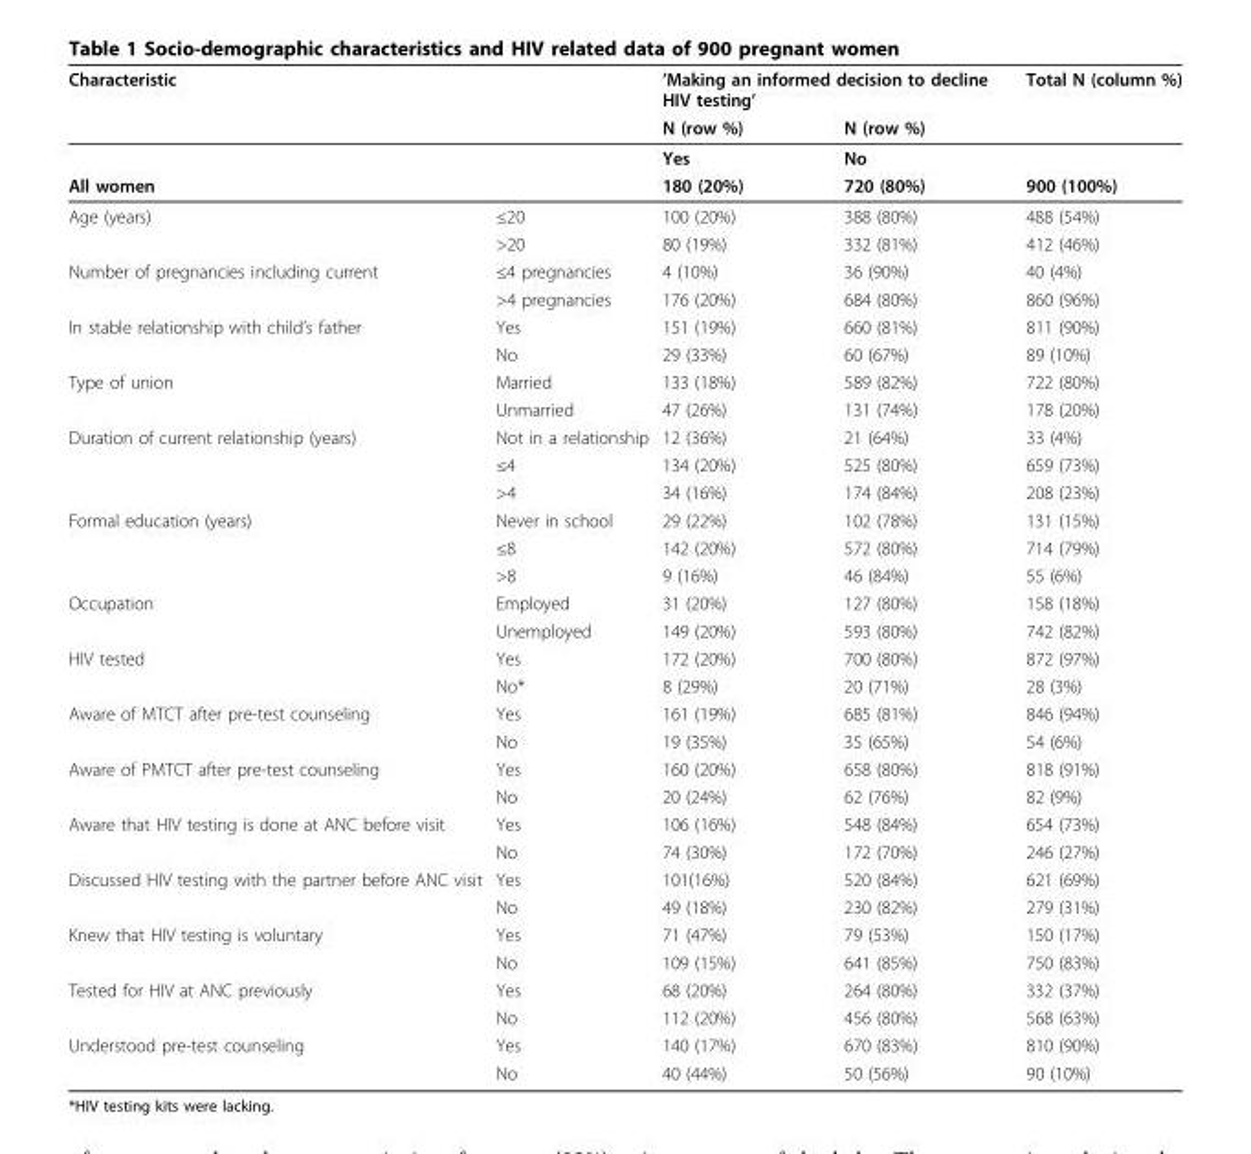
<table><thead><tr><td rowspan="2">Characteristic</td><td rowspan="2"></td><td colspan="2">’Making an informed decision to decline HIV testing’</td><td rowspan="2">Total N (column %)</td></tr><tr><td>N (row %)</td><td>N (row %)</td></tr></thead><tbody><tr><td></td><td></td><td>Yes</td><td>No</td><td></td></tr><tr><td>All women</td><td></td><td>180 (20%)</td><td>720 (80%)</td><td>900 (100%)</td></tr><tr><td rowspan="2">Age (years)</td><td>≤20</td><td>100 (20%)</td><td>388 (80%)</td><td>488 (54%)</td></tr><tr><td>&gt;20</td><td>80 (19%)</td><td>332 (81%)</td><td>412 (46%)</td></tr><tr><td rowspan="2">Number of pregnancies including current</td><td>≤4 pregnancies</td><td>4 (10%)</td><td>36 (90%)</td><td>40 (4%)</td></tr><tr><td>&gt;4 pregnancies</td><td>176 (20%)</td><td>684 (80%)</td><td>860 (96%)</td></tr><tr><td rowspan="2">In stable relationship with child’s father</td><td>Yes</td><td>151 (19%)</td><td>660 (81%)</td><td>811 (90%)</td></tr><tr><td>No</td><td>29 (33%)</td><td>60 (67%)</td><td>89 (10%)</td></tr><tr><td rowspan="2">Type of union</td><td>Married</td><td>133 (18%)</td><td>589 (82%)</td><td>722 (80%)</td></tr><tr><td>Unmarried</td><td>47 (26%)</td><td>131 (74%)</td><td>178 (20%)</td></tr><tr><td rowspan="3">Duration of current relationship (years)</td><td>Not in a relationship</td><td>12 (36%)</td><td>21 (64%)</td><td>33 (4%)</td></tr><tr><td>≤4</td><td>134 (20%)</td><td>525 (80%)</td><td>659 (73%)</td></tr><tr><td>&gt;4</td><td>34 (16%)</td><td>174 (84%)</td><td>208 (23%)</td></tr><tr><td rowspan="3">Formal education (years)</td><td>Never in school</td><td>29 (22%)</td><td>102 (78%)</td><td>131 (15%)</td></tr><tr><td>≤8</td><td>142 (20%)</td><td>572 (80%)</td><td>714 (79%)</td></tr><tr><td>&gt;8</td><td>9 (16%)</td><td>46 (84%)</td><td>55 (6%)</td></tr><tr><td rowspan="2">Occupation</td><td>Employed</td><td>31 (20%)</td><td>127 (80%)</td><td>158 (18%)</td></tr><tr><td>Unemployed</td><td>149 (20%)</td><td>593 (80%)</td><td>742 (82%)</td></tr><tr><td rowspan="2">HIV tested</td><td>Yes</td><td>172 (20%)</td><td>700 (80%)</td><td>872 (97%)</td></tr><tr><td>No*</td><td>8 (29%)</td><td>20 (71%)</td><td>28 (3%)</td></tr><tr><td rowspan="2">Aware of MTCT after pre-test counseling</td><td>Yes</td><td>161 (19%)</td><td>685 (81%)</td><td>846 (94%)</td></tr><tr><td>No</td><td>19 (35%)</td><td>35 (65%)</td><td>54 (6%)</td></tr><tr><td rowspan="2">Aware of PMTCT after pre-test counseling</td><td>Yes</td><td>160 (20%)</td><td>658 (80%)</td><td>818 (91%)</td></tr><tr><td>No</td><td>20 (24%)</td><td>62 (76%)</td><td>82 (9%)</td></tr><tr><td rowspan="2">Aware that HIV testing is done at ANC before visit</td><td>Yes</td><td>106 (16%)</td><td>548 (84%)</td><td>654 (73%)</td></tr><tr><td>No</td><td>74 (30%)</td><td>172 (70%)</td><td>246 (27%)</td></tr><tr><td rowspan="2">Discussed HIV testing with the partner before ANC visit</td><td>Yes</td><td>101(16%)</td><td>520 (84%)</td><td>621 (69%)</td></tr><tr><td>No</td><td>49 (18%)</td><td>230 (82%)</td><td>279 (31%)</td></tr><tr><td rowspan="2">Knew that HIV testing is voluntary</td><td>Yes</td><td>71 (47%)</td><td>79 (53%)</td><td>150 (17%)</td></tr><tr><td>No</td><td>109 (15%)</td><td>641 (85%)</td><td>750 (83%)</td></tr><tr><td rowspan="2">Tested for HIV at ANC previously</td><td>Yes</td><td>68 (20%)</td><td>264 (80%)</td><td>332 (37%)</td></tr><tr><td>No</td><td>112 (20%)</td><td>456 (80%)</td><td>568 (63%)</td></tr><tr><td rowspan="2">Understood pre-test counseling</td><td>Yes</td><td>140 (17%)</td><td>670 (83%)</td><td>810 (90%)</td></tr><tr><td>No</td><td>40 (44%)</td><td>50 (56%)</td><td>90 (10%)</td></tr></tbody></table>